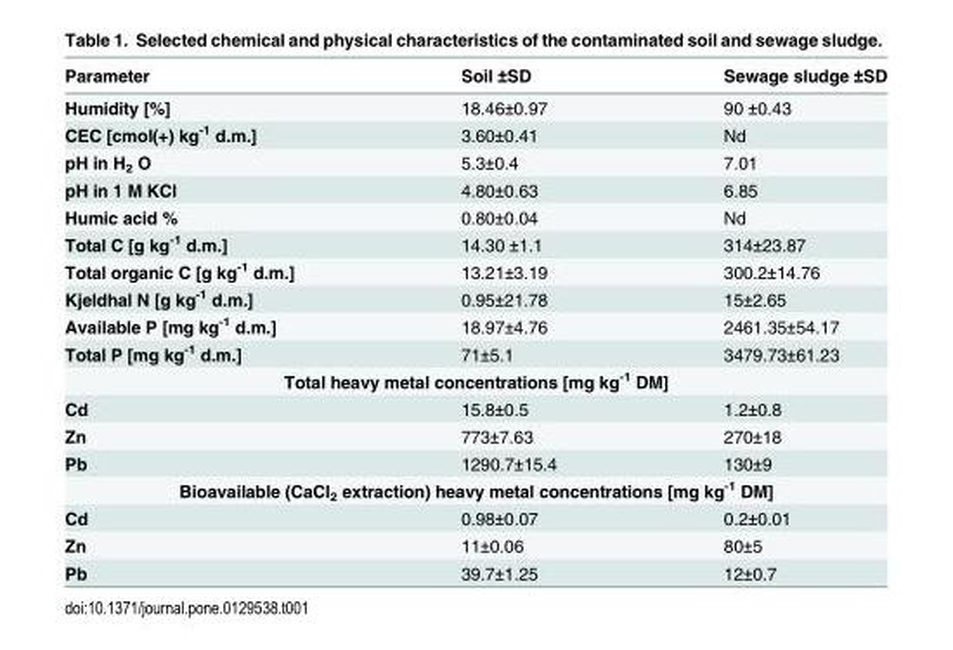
<table><thead><tr><td>Parameter</td><td>Soil ±SD</td><td>Sewage sludge ±SD</td></tr></thead><tbody><tr><td>Humidity [%]</td><td>18.46±0.97</td><td>90 ±0.43</td></tr><tr><td>CEC [cmol(+) kg<sup>-1</sup> d.m.]</td><td>3.60±0.41</td><td>Nd</td></tr><tr><td>pH in H<sub>2</sub> O</td><td>5.3±0.4</td><td>7.01</td></tr><tr><td>pH in 1 M KCl</td><td>4.80±0.63</td><td>6.85</td></tr><tr><td>Humic acid %</td><td>0.80±0.04</td><td>Nd</td></tr><tr><td>Total C [g kg<sup>-1</sup> d.m.]</td><td>14.30 ±1.1</td><td>314±23.87</td></tr><tr><td>Total organic C [g kg<sup>-1</sup> d.m.]</td><td>13.21±3.19</td><td>300.2±14.76</td></tr><tr><td>Kjeldhal N [g kg<sup>-1</sup> d.m.]</td><td>0.95±21.78</td><td>15±2.65</td></tr><tr><td>Available P [mg kg<sup>-1</sup> d.m.]</td><td>18.97±4.76</td><td>2461.35±54.17</td></tr><tr><td>Total P [mg kg<sup>-1</sup> d.m.]</td><td>71±5.1</td><td>3479.73±61.23</td></tr><tr><td colspan="3">Total heavy metal concentrations [mg kg<sup>-1</sup> DM]</td></tr><tr><td>Cd</td><td>15.8±0.5</td><td>1.2±0.8</td></tr><tr><td>Zn</td><td>773±7.63</td><td>270±18</td></tr><tr><td>Pb</td><td>1290.7±15.4</td><td>130±9</td></tr><tr><td colspan="3">Bioavailable (CaCl<sub>2</sub> extraction) heavy metal concentrations [mg kg<sup>-1</sup> DM]</td></tr><tr><td>Cd</td><td>0.98±0.07</td><td>0.2±0.01</td></tr><tr><td>Zn</td><td>11±0.06</td><td>80±5</td></tr><tr><td>Pb</td><td>39.7±1.25</td><td>12±0.7</td></tr></tbody></table>